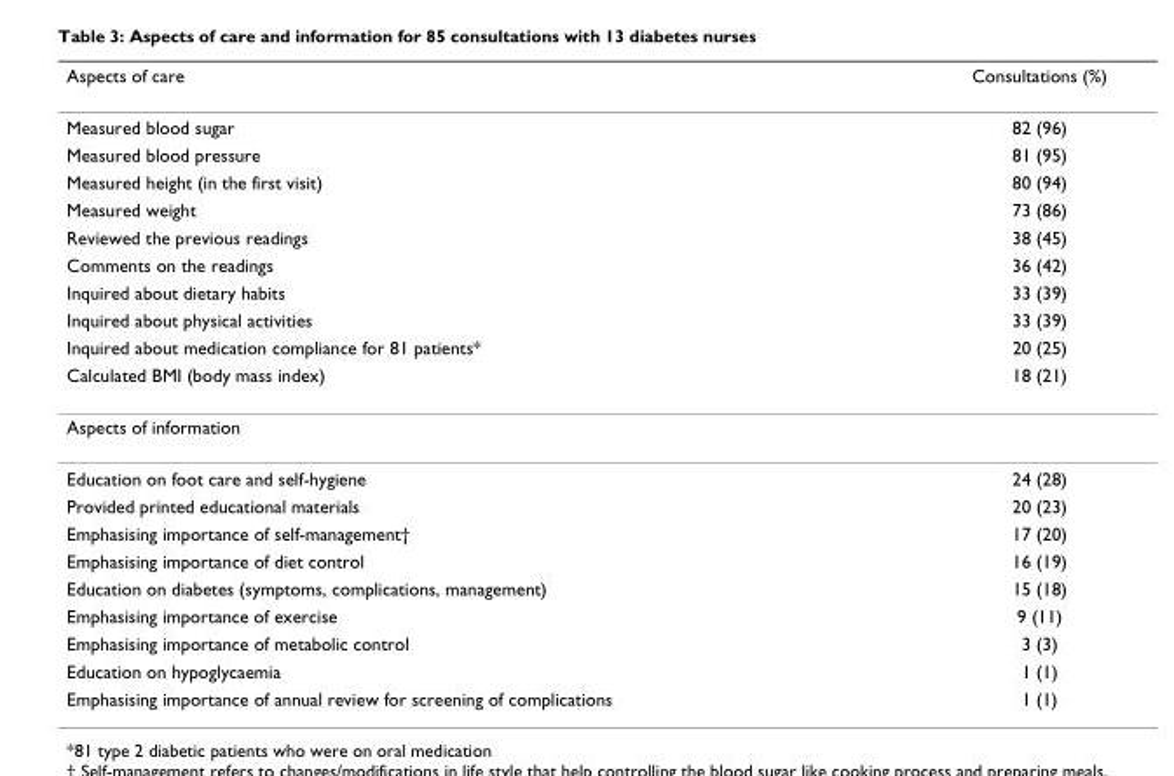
<table><thead><tr><td>Aspects of care</td><td>Consultations (%)</td></tr></thead><tbody><tr><td>Measured blood sugar</td><td>82 (96)</td></tr><tr><td>Measured blood pressure</td><td>81 (95)</td></tr><tr><td>Measured height (in the first visit)</td><td>80 (94)</td></tr><tr><td>Measured weight</td><td>73 (86)</td></tr><tr><td>Reviewed the previous readings</td><td>38 (45)</td></tr><tr><td>Comments on the readings</td><td>36 (42)</td></tr><tr><td>Inquired about dietary habits</td><td>33 (39)</td></tr><tr><td>Inquired about physical activities</td><td>33 (39)</td></tr><tr><td>Inquired about medication compliance for 81 patients*</td><td>20 (25)</td></tr><tr><td>Calculated BMI (body mass index)</td><td>18 (21)</td></tr><tr><td colspan="2">Aspects of information</td></tr><tr><td>Education on foot care and self-hygiene</td><td>24 (28)</td></tr><tr><td>Provided printed educational materials</td><td>20 (23)</td></tr><tr><td>Emphasising importance of self-management†</td><td>17 (20)</td></tr><tr><td>Emphasising importance of diet control</td><td>16 (19)</td></tr><tr><td>Education on diabetes (symptoms, complications, management)</td><td>15 (18)</td></tr><tr><td>Emphasising importance of exercise</td><td>9 (11)</td></tr><tr><td>Emphasising importance of metabolic control</td><td>3 (3)</td></tr><tr><td>Education on hypoglycaemia</td><td>1 (1)</td></tr><tr><td>Emphasising importance of annual review for screening of complications</td><td>1 (1)</td></tr></tbody></table>